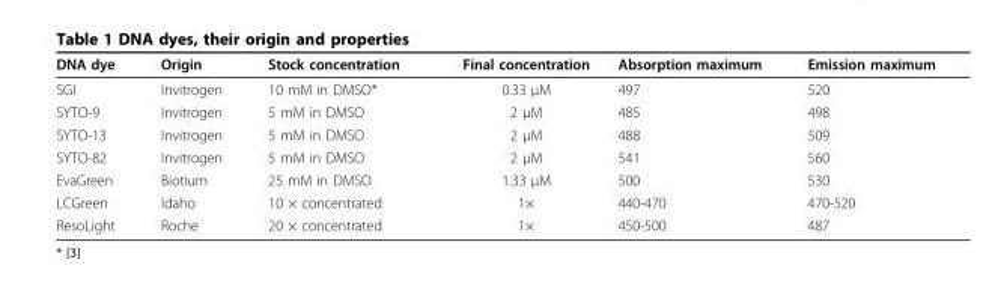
<table><thead><tr><td>DNA dye</td><td>Origin</td><td>Stock concentration</td><td>Final concentration</td><td>Absorption maximum</td><td>Emission maximum</td></tr></thead><tbody><tr><td>SGI</td><td>Invitrogen</td><td>10 mM in DMSO*</td><td>0.33 μM</td><td>497</td><td>520</td></tr><tr><td>SYTO-9</td><td>Invitrogen</td><td>5 mM in DMSO</td><td>2 μM</td><td>485</td><td>498</td></tr><tr><td>SYTO-13</td><td>Invitrogen</td><td>5 mM in DMSO</td><td>2 μM</td><td>488</td><td>509</td></tr><tr><td>SYTO-82</td><td>Invitrogen</td><td>5 mM in DMSO</td><td>2 μM</td><td>541</td><td>560</td></tr><tr><td>EvaGreen</td><td>Biotium</td><td>25 mM in DMSO</td><td>1.33 μM</td><td>500</td><td>530</td></tr><tr><td>LCGreen</td><td>Idaho</td><td>10 × concentrated</td><td>1×</td><td>440-470</td><td>470-520</td></tr><tr><td>ResoLight</td><td>Roche</td><td>20 × concentrated</td><td>1×</td><td>450-500</td><td>487</td></tr></tbody></table>